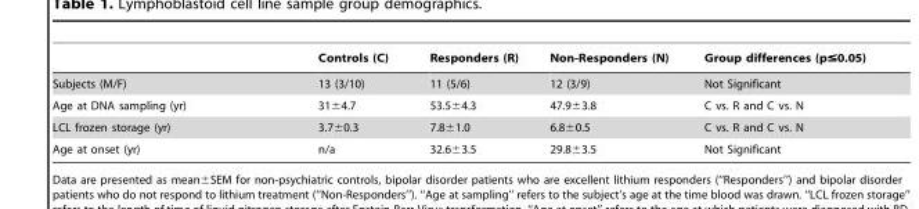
<table><thead><tr><td></td><td>Controls (C)</td><td>Responders (R)</td><td>Non-Responders (N)</td><td>Group differences (p≤0.05)</td></tr></thead><tbody><tr><td>Subjects (M/F)</td><td>13 (3/10)</td><td>11 (5/6)</td><td>12 (3/9)</td><td>Not Significant</td></tr><tr><td>Age at DNA sampling (yr)</td><td>31±4.7</td><td>53.5±4.3</td><td>47.9±3.8</td><td>C vs. R and C vs. N</td></tr><tr><td>LCL frozen storage (yr)</td><td>3.7±0.3</td><td>7.8±1.0</td><td>6.8±0.5</td><td>C vs. R and C vs. N</td></tr><tr><td>Age at onset (yr)</td><td>n/a</td><td>32.6±3.5</td><td>29.8±3.5</td><td>Not Significant</td></tr></tbody></table>